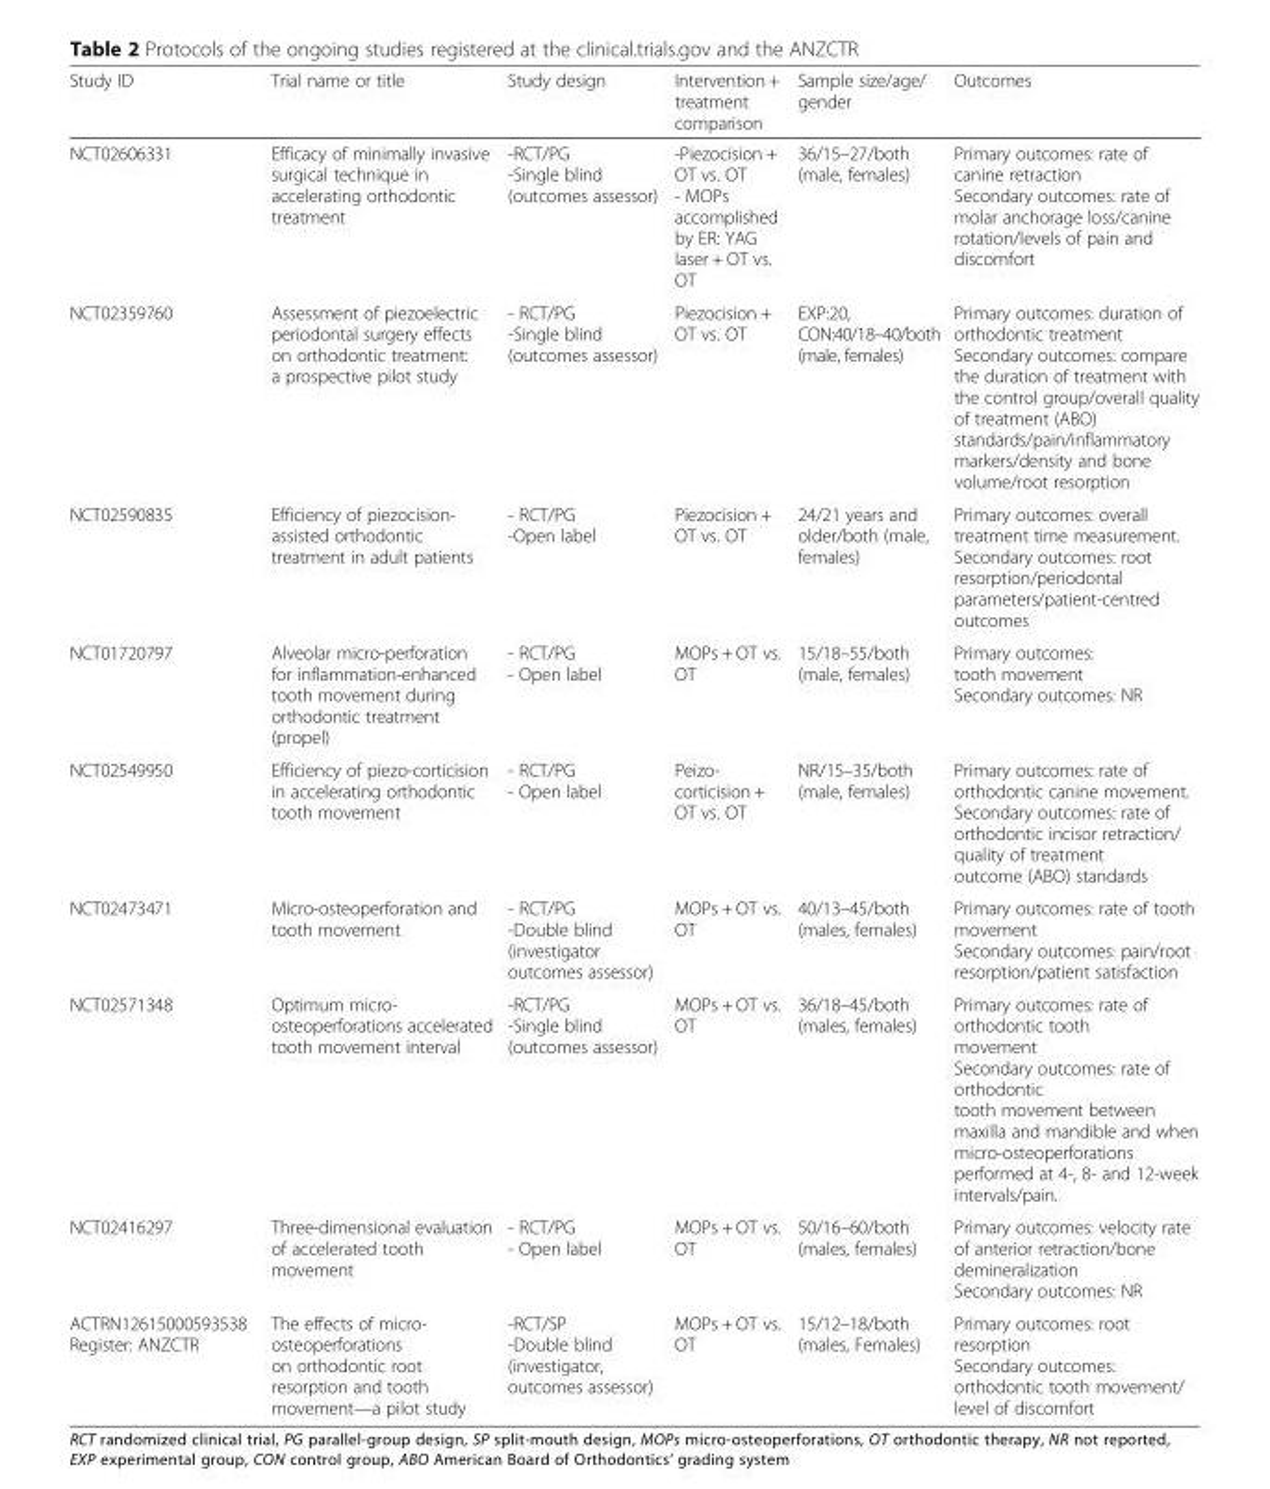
<table><thead><tr><td>Study ID</td><td>Trial name or title</td><td>Study design</td><td>Intervention + treatment comparison</td><td>Sample size/age/ gender</td><td>Outcomes</td></tr></thead><tbody><tr><td>NCT02606331</td><td>Efficacy of minimally invasive surgical technique in accelerating orthodontic treatment</td><td>-RCT/PG -Single blind (outcomes assessor)</td><td>-Piezocision + OT vs. OT - MOPs accomplished by ER: YAG laser + OT vs. OT</td><td>36/15–27/both (male, females)</td><td>Primary outcomes: rate of canine retraction Secondary outcomes: rate of molar anchorage loss/canine rotation/levels of pain and discomfort</td></tr><tr><td>NCT02359760</td><td>Assessment of piezoelectric periodontal surgery effects on orthodontic treatment: a prospective pilot study</td><td>- RCT/PG -Single blind (outcomes assessor)</td><td>Piezocision + OT vs. OT</td><td>EXP:20, CON:40/18–40/both (male, females)</td><td>Primary outcomes: duration of orthodontic treatment Secondary outcomes: compare the duration of treatment with the control group/overall quality of treatment (ABO) standards/pain/inflammatory markers/density and bone volume/root resorption</td></tr><tr><td>NCT02590835</td><td>Efficiency of piezocision- assisted orthodontic treatment in adult patients</td><td>- RCT/PG -Open label</td><td>Piezocision + OT vs. OT</td><td>24/21 years and older/both (male, females)</td><td>Primary outcomes: overall treatment time measurement. Secondary outcomes: root resorption/periodontal parameters/patient-centred outcomes</td></tr><tr><td>NCT01720797</td><td>Alveolar micro-perforation for inflammation-enhanced tooth movement during orthodontic treatment (propel)</td><td>- RCT/PG - Open label</td><td>MOPs + OT vs. OT</td><td>15/18–55/both (male, females)</td><td>Primary outcomes: tooth movement Secondary outcomes: NR</td></tr><tr><td>NCT02549950</td><td>Efficiency of piezo-corticision in accelerating orthodontic tooth movement</td><td>- RCT/PG - Open label</td><td>Peizo- corticision + OT vs. OT</td><td>NR/15–35/both (male, females)</td><td>Primary outcomes: rate of orthodontic canine movement. Secondary outcomes: rate of orthodontic incisor retraction/ quality of treatment outcome (ABO) standards</td></tr><tr><td>NCT02473471</td><td>Micro-osteoperforation and tooth movement</td><td>- RCT/PG -Double blind (investigator outcomes assessor)</td><td>MOPs + OT vs. OT</td><td>40/13–45/both (males, females)</td><td>Primary outcomes: rate of tooth movement Secondary outcomes: pain/root resorption/patient satisfaction</td></tr><tr><td>NCT02571348</td><td>Optimum micro- osteoperforations accelerated tooth movement interval</td><td>-RCT/PG -Single blind (outcomes assessor)</td><td>MOPs + OT vs. OT</td><td>36/18–45/both (males, females)</td><td>Primary outcomes: rate of orthodontic tooth movement Secondary outcomes: rate of orthodontic tooth movement between maxilla and mandible and when micro-osteoperforations performed at 4-, 8- and 12-week intervals/pain.</td></tr><tr><td>NCT02416297</td><td>Three-dimensional evaluation of accelerated tooth movement</td><td>- RCT/PG - Open label</td><td>MOPs + OT vs. OT</td><td>50/16–60/both (males, females)</td><td>Primary outcomes: velocity rate of anterior retraction/bone demineralization Secondary outcomes: NR</td></tr><tr><td>ACTRN12615000593538 Register: ANZCTR</td><td>The effects of micro- osteoperforations on orthodontic root resorption and tooth movement—a pilot study</td><td>-RCT/SP -Double blind (investigator, outcomes assessor)</td><td>MOPs + OT vs. OT</td><td>15/12–18/both (males, Females)</td><td>Primary outcomes: root resorption Secondary outcomes: orthodontic tooth movement/ level of discomfort</td></tr></tbody></table>